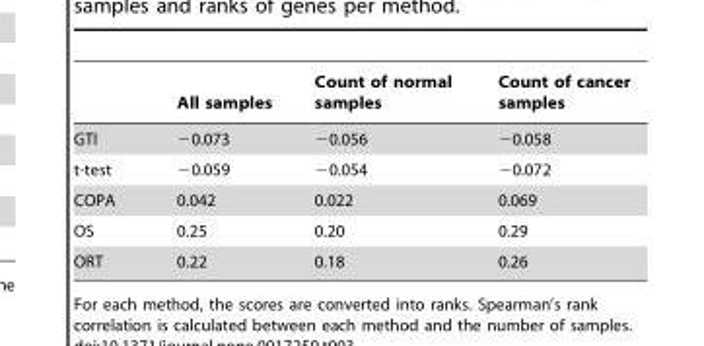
<table><thead><tr><td></td><td>All samples</td><td>Count of normal samples</td><td>Count of cancer samples</td></tr></thead><tbody><tr><td>GTI</td><td>−0.073</td><td>−0.056</td><td>−0.058</td></tr><tr><td>t-test</td><td>−0.059</td><td>−0.054</td><td>−0.072</td></tr><tr><td>COPA</td><td>0.042</td><td>0.022</td><td>0.069</td></tr><tr><td>OS</td><td>0.25</td><td>0.20</td><td>0.29</td></tr><tr><td>ORT</td><td>0.22</td><td>0.18</td><td>0.26</td></tr></tbody></table>